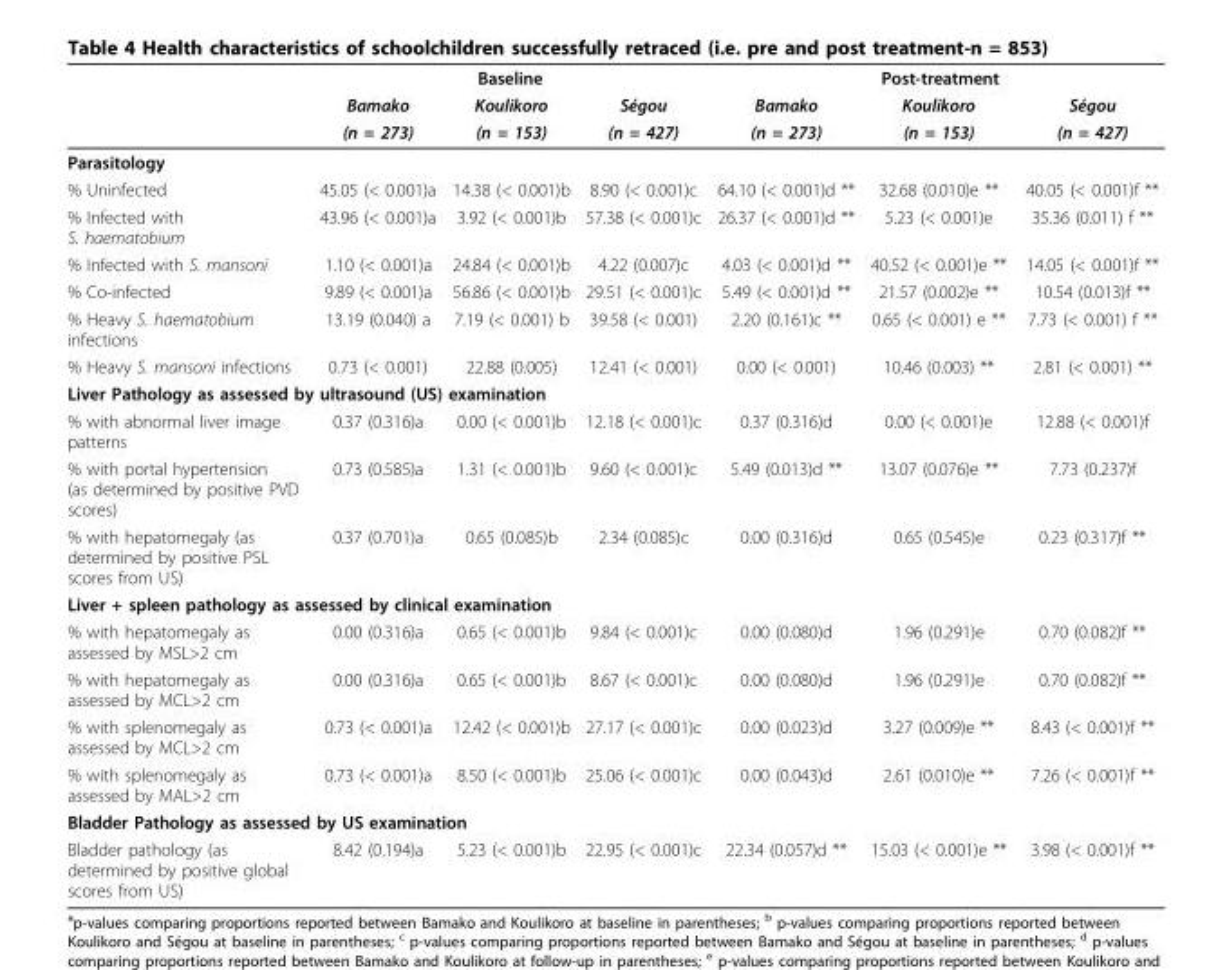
<table><thead><tr><td rowspan="3"></td><td colspan="3">Baseline</td><td colspan="3">Post-treatment</td></tr><tr><td rowspan="2">Bamako (n = 273)</td><td rowspan="2">Koulikoro (n = 153)</td><td rowspan="2">Ségou (n = 427)</td><td rowspan="2">Bamako (n = 273)</td><td rowspan="2">Koulikoro (n = 153)</td><td rowspan="2">Ségou (n = 427)</td></tr><tr></tr></thead><tbody><tr><td colspan="7">Parasitology</td></tr><tr><td>% Uninfected</td><td>45.05 (&lt; 0.001)a</td><td>14.38 (&lt; 0.001)b</td><td>8.90 (&lt; 0.001)c</td><td>64.10 (&lt; 0.001)d **</td><td>32.68 (0.010)e **</td><td>40.05 (&lt; 0.001)f **</td></tr><tr><td>% Infected with S. haematobium</td><td>43.96 (&lt; 0.001)a</td><td>3.92 (&lt; 0.001)b</td><td>57.38 (&lt; 0.001)c</td><td>26.37 (&lt; 0.001)d **</td><td>5.23 (&lt; 0.001)e</td><td>35.36 (0.011) f **</td></tr><tr><td>% Infected with S. mansoni</td><td>1.10 (&lt; 0.001)a</td><td>24.84 (&lt; 0.001)b</td><td>4.22 (0.007)c</td><td>4.03 (&lt; 0.001)d **</td><td>40.52 (&lt; 0.001)e **</td><td>14.05 (&lt; 0.001)f **</td></tr><tr><td>% Co-infected</td><td>9.89 (&lt; 0.001)a</td><td>56.86 (&lt; 0.001)b</td><td>29.51 (&lt; 0.001)c</td><td>5.49 (&lt; 0.001)d **</td><td>21.57 (0.002)e **</td><td>10.54 (0.013)f **</td></tr><tr><td>% Heavy S. haematobium infections</td><td>13.19 (0.040) a</td><td>7.19 (&lt; 0.001) b</td><td>39.58 (&lt; 0.001)</td><td>2.20 (0.161)c **</td><td>0.65 (&lt; 0.001) e **</td><td>7.73 (&lt; 0.001) f **</td></tr><tr><td>% Heavy S. mansoni infections</td><td>0.73 (&lt; 0.001)</td><td>22.88 (0.005)</td><td>12.41 (&lt; 0.001)</td><td>0.00 (&lt; 0.001)</td><td>10.46 (0.003) **</td><td>2.81 (&lt; 0.001) **</td></tr><tr><td colspan="7">Liver Pathology as assessed by ultrasound (US) examination</td></tr><tr><td>% with abnormal liver image patterns</td><td>0.37 (0.316)a</td><td>0.00 (&lt; 0.001)b</td><td>12.18 (&lt; 0.001)c</td><td>0.37 (0.316)d</td><td>0.00 (&lt; 0.001)e</td><td>12.88 (&lt; 0.001)f</td></tr><tr><td>% with portal hypertension (as determined by positive PVD scores)</td><td>0.73 (0.585)a</td><td>1.31 (&lt; 0.001)b</td><td>9.60 (&lt; 0.001)c</td><td>5.49 (0.013)d **</td><td>13.07 (0.076)e **</td><td>7.73 (0.237)f</td></tr><tr><td>% with hepatomegaly (as determined by positive PSL scores from US)</td><td>0.37 (0.701)a</td><td>0.65 (0.085)b</td><td>2.34 (0.085)c</td><td>0.00 (0.316)d</td><td>0.65 (0.545)e</td><td>0.23 (0.317)f **</td></tr><tr><td colspan="7">Liver + spleen pathology as assessed by clinical examination</td></tr><tr><td>% with hepatomegaly as assessed by MSL&gt;2 cm</td><td>0.00 (0.316)a</td><td>0.65 (&lt; 0.001)b</td><td>9.84 (&lt; 0.001)c</td><td>0.00 (0.080)d</td><td>1.96 (0.291)e</td><td>0.70 (0.082)f **</td></tr><tr><td>% with hepatomegaly as assessed by MCL&gt;2 cm</td><td>0.00 (0.316)a</td><td>0.65 (&lt; 0.001)b</td><td>8.67 (&lt; 0.001)c</td><td>0.00 (0.080)d</td><td>1.96 (0.291)e</td><td>0.70 (0.082)f **</td></tr><tr><td>% with splenomegaly as assessed by MCL&gt;2 cm</td><td>0.73 (&lt; 0.001)a</td><td>12.42 (&lt; 0.001)b</td><td>27.17 (&lt; 0.001)c</td><td>0.00 (0.023)d</td><td>3.27 (0.009)e **</td><td>8.43 (&lt; 0.001)f **</td></tr><tr><td>% with splenomegaly as assessed by MAL&gt;2 cm</td><td>0.73 (&lt; 0.001)a</td><td>8.50 (&lt; 0.001)b</td><td>25.06 (&lt; 0.001)c</td><td>0.00 (0.043)d</td><td>2.61 (0.010)e **</td><td>7.26 (&lt; 0.001)f **</td></tr><tr><td colspan="7">Bladder Pathology as assessed by US examination</td></tr><tr><td>Bladder pathology (as determined by positive global scores from US)</td><td>8.42 (0.194)a</td><td>5.23 (&lt; 0.001)b</td><td>22.95 (&lt; 0.001)c</td><td>22.34 (0.057)d **</td><td>15.03 (&lt; 0.001)e **</td><td>3.98 (&lt; 0.001)f **</td></tr></tbody></table>